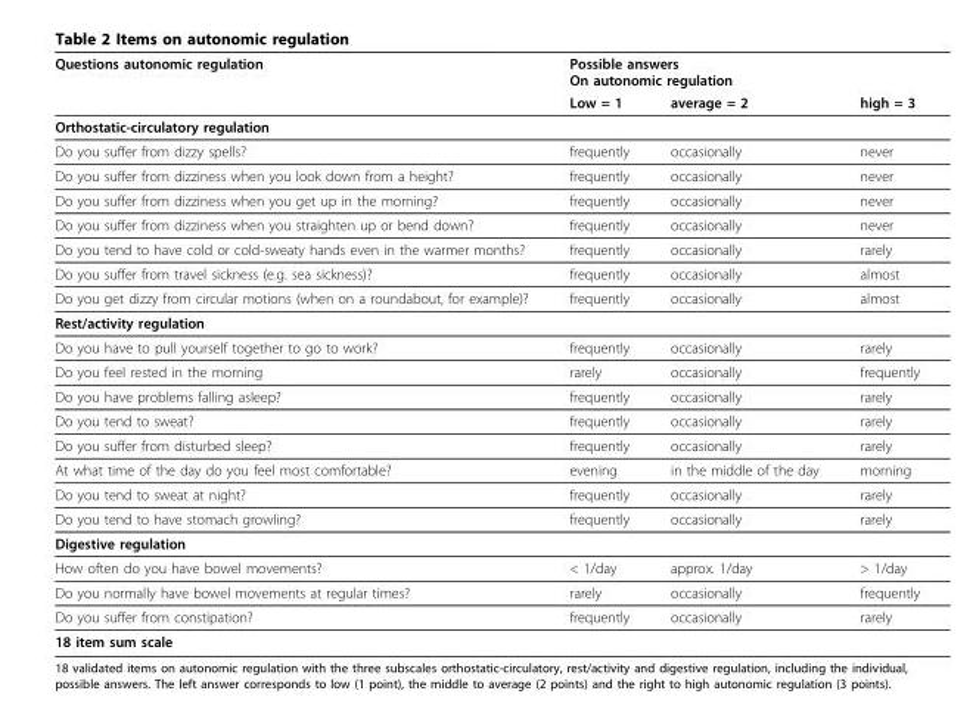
<table><thead><tr><td rowspan="2">Questions autonomic regulation</td><td colspan="3">Possible answers On autonomic regulation</td></tr><tr><td>Low = 1</td><td>average = 2</td><td>high = 3</td></tr></thead><tbody><tr><td colspan="4">Orthostatic-circulatory regulation</td></tr><tr><td>Do you suffer from dizzy spells?</td><td>frequently</td><td>occasionally</td><td>never</td></tr><tr><td>Do you suffer from dizziness when you look down from a height?</td><td>frequently</td><td>occasionally</td><td>never</td></tr><tr><td>Do you suffer from dizziness when you get up in the morning?</td><td>frequently</td><td>occasionally</td><td>never</td></tr><tr><td>Do you suffer from dizziness when you straighten up or bend down?</td><td>frequently</td><td>occasionally</td><td>never</td></tr><tr><td>Do you tend to have cold or cold-sweaty hands even in the warmer months?</td><td>frequently</td><td>occasionally</td><td>rarely</td></tr><tr><td>Do you suffer from travel sickness (e.g. sea sickness)?</td><td>frequently</td><td>occasionally</td><td>almost</td></tr><tr><td>Do you get dizzy from circular motions (when on a roundabout, for example)?</td><td>frequently</td><td>occasionally</td><td>almost</td></tr><tr><td colspan="4">Rest/activity regulation</td></tr><tr><td>Do you have to pull yourself together to go to work?</td><td>frequently</td><td>occasionally</td><td>rarely</td></tr><tr><td>Do you feel rested in the morning</td><td>rarely</td><td>occasionally</td><td>frequently</td></tr><tr><td>Do you have problems falling asleep?</td><td>frequently</td><td>occasionally</td><td>rarely</td></tr><tr><td>Do you tend to sweat?</td><td>frequently</td><td>occasionally</td><td>rarely</td></tr><tr><td>Do you suffer from disturbed sleep?</td><td>frequently</td><td>occasionally</td><td>rarely</td></tr><tr><td>At what time of the day do you feel most comfortable?</td><td>evening</td><td>in the middle of the day</td><td>morning</td></tr><tr><td>Do you tend to sweat at night?</td><td>frequently</td><td>occasionally</td><td>rarely</td></tr><tr><td>Do you tend to have stomach growling?</td><td>frequently</td><td>occasionally</td><td>rarely</td></tr><tr><td colspan="4">Digestive regulation</td></tr><tr><td>How often do you have bowel movements?</td><td>&lt; 1/day</td><td>approx. 1/day</td><td>&gt; 1/day</td></tr><tr><td>Do you normally have bowel movements at regular times?</td><td>rarely</td><td>occasionally</td><td>frequently</td></tr><tr><td>Do you suffer from constipation?</td><td>frequently</td><td>occasionally</td><td>rarely</td></tr><tr><td>18 item sum scale</td><td></td><td></td><td></td></tr></tbody></table>